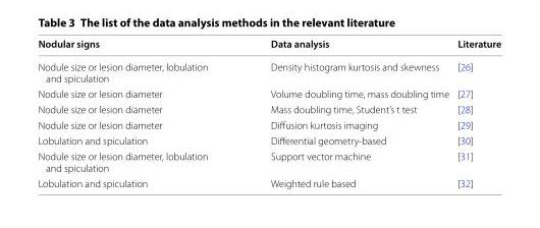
<table><thead><tr><td>Nodular signs</td><td>Data analysis</td><td>Literature</td></tr></thead><tbody><tr><td>Nodule size or lesion diameter, lobulation and spiculation</td><td>Density histogram kurtosis and skewness</td><td>[26]</td></tr><tr><td>Nodule size or lesion diameter</td><td>Volume doubling time, mass doubling time</td><td>[27]</td></tr><tr><td>Nodule size or lesion diameter</td><td>Mass doubling time, Student’s t test</td><td>[28]</td></tr><tr><td>Nodule size or lesion diameter</td><td>Diffusion kurtosis imaging</td><td>[29]</td></tr><tr><td>Lobulation and spiculation</td><td>Differential geometry-based</td><td>[30]</td></tr><tr><td>Nodule size or lesion diameter, lobulation and spiculation</td><td>Support vector machine</td><td>[31]</td></tr><tr><td>Lobulation and spiculation</td><td>Weighted rule based</td><td>[32]</td></tr></tbody></table>